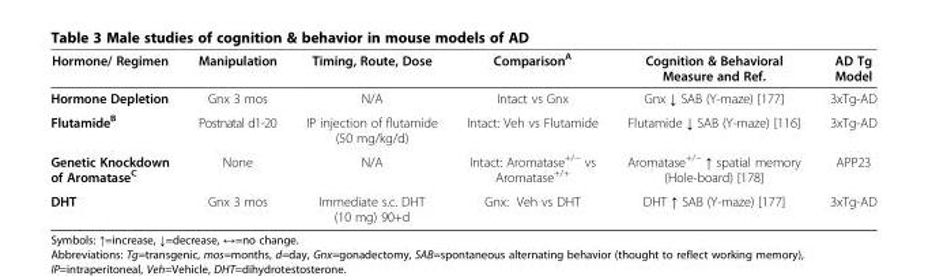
<table><thead><tr><td>Hormone/ Regimen</td><td>Manipulation</td><td>Timing, Route, Dose</td><td>Comparison<sup>A</sup></td><td>Cognition &amp; Behavioral Measure and Ref.</td><td>AD Tg Model</td></tr></thead><tbody><tr><td>Hormone Depletion</td><td>Gnx 3 mos</td><td>N/A</td><td>Intact vs Gnx</td><td>Gnx ↓ SAB (Y-maze) [177]</td><td>3xTg-AD</td></tr><tr><td>Flutamide<sup>B</sup></td><td>Postnatal d1-20</td><td>IP injection of flutamide (50 mg/kg/d)</td><td>Intact: Veh vs Flutamide</td><td>Flutamide ↓ SAB (Y-maze) [116]</td><td>3xTg-AD</td></tr><tr><td>Genetic Knockdown of Aromatase<sup>C</sup></td><td>None</td><td>N/A</td><td>Intact: Aromatase<sup>+/−</sup> vs Aromatase<sup>+/+</sup></td><td>Aromatase<sup>+/−</sup> ↑ spatial memory (Hole-board) [178]</td><td>APP23</td></tr><tr><td>DHT</td><td>Gnx 3 mos</td><td>Immediate s.c. DHT (10 mg) 90+d</td><td>Gnx: Veh vs DHT</td><td>DHT ↑ SAB (Y-maze) [177]</td><td>3xTg-AD</td></tr></tbody></table>